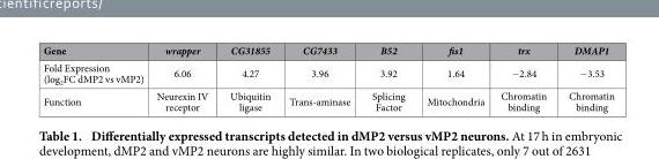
<table><thead><tr><td>Gene</td><td>wrapper</td><td>CG31855</td><td>CG7433</td><td>B52</td><td>fis1</td><td>trx</td><td>DMAP1</td></tr></thead><tbody><tr><td>Fold Expression (log<sub>2</sub>FC dMP2 vs vMP2)</td><td>6.06</td><td>4.27</td><td>3.96</td><td>3.92</td><td>1.64</td><td>−2.84</td><td>−3.53</td></tr><tr><td>Function</td><td>Neurexin IV receptor</td><td>Ubiquitin ligase</td><td>Trans-aminase</td><td>Splicing Factor</td><td>Mitochondria</td><td>Chromatin binding</td><td>Chromatin binding</td></tr></tbody></table>